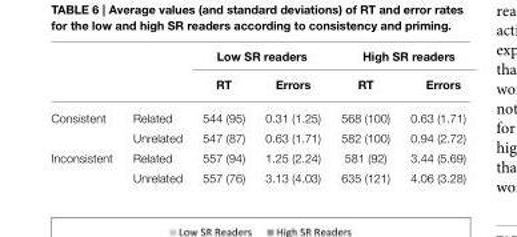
<table><thead><tr><td rowspan="2"></td><td rowspan="2"></td><td colspan="2">Low SR readers</td><td colspan="2">High SR readers</td></tr><tr><td>RT</td><td>Errors</td><td>RT</td><td>Errors</td></tr></thead><tbody><tr><td rowspan="2">Consistent</td><td>Related</td><td>544 (95)</td><td>0.31 (1.25)</td><td>568 (100)</td><td>0.63 (1.71)</td></tr><tr><td>Unrelated</td><td>547 (87)</td><td>0.63 (1.71)</td><td>582 (100)</td><td>0.94 (2.72)</td></tr><tr><td rowspan="2">Inconsistent</td><td>Related</td><td>557 (94)</td><td>1.25 (2.24)</td><td>581 (92)</td><td>3.44 (5.69)</td></tr><tr><td>Unrelated</td><td>557 (76)</td><td>3.13 (4.03)</td><td>635 (121)</td><td>4.06 (3.28)</td></tr></tbody></table>